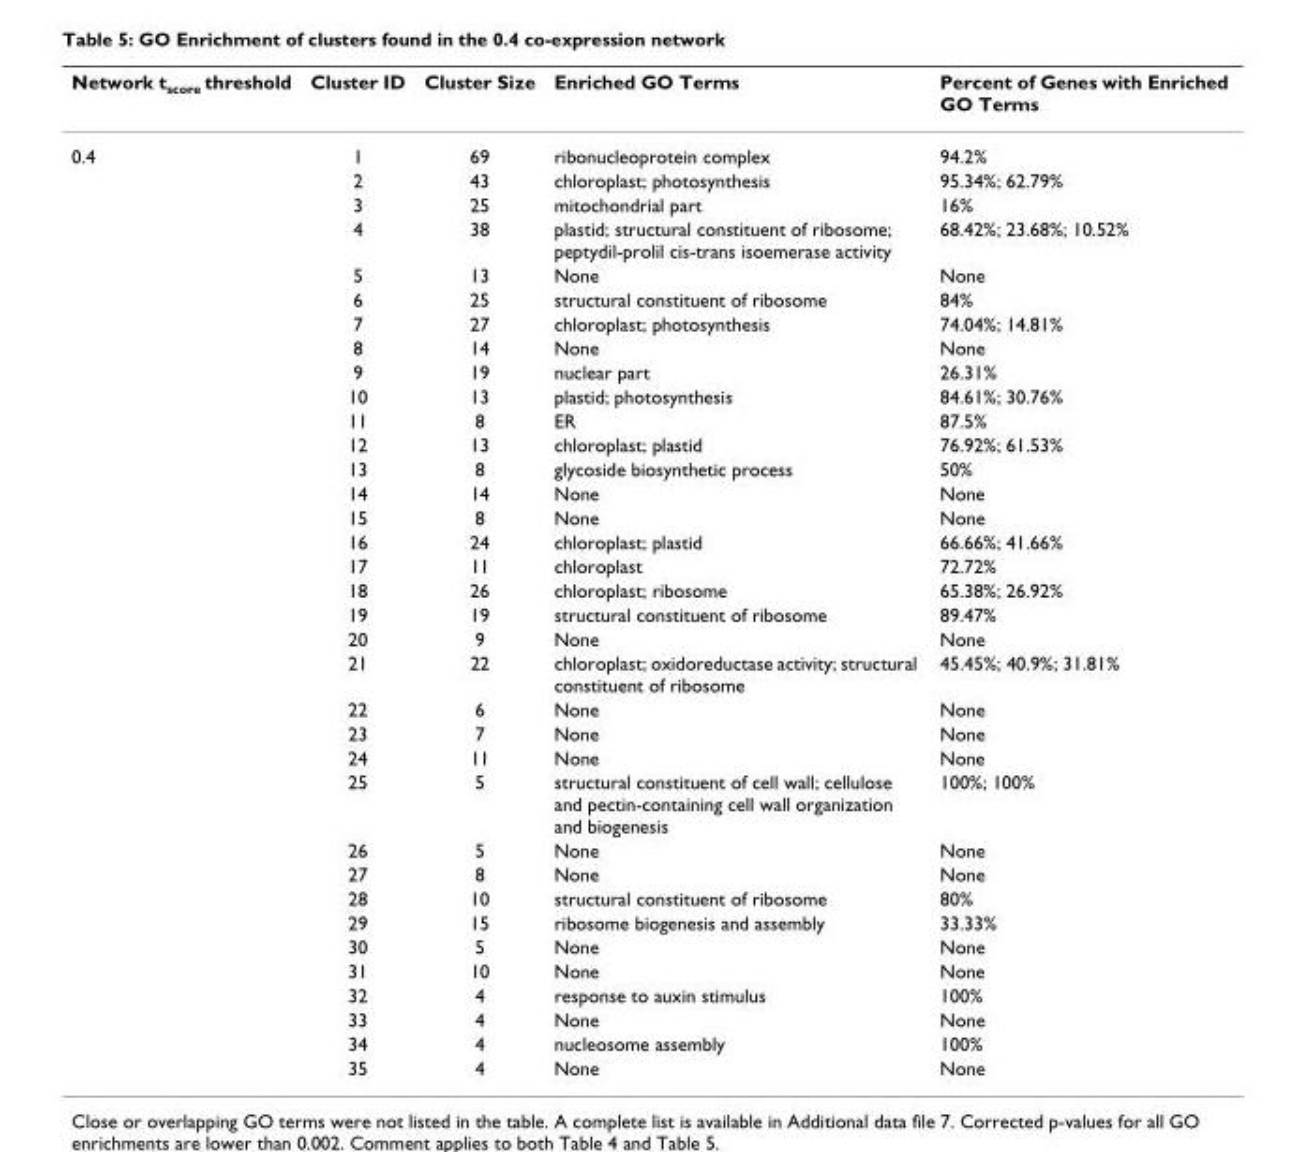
<table><thead><tr><td>Network t<sub>score</sub> threshold</td><td>Cluster ID</td><td>Cluster Size</td><td>Enriched GO Terms</td><td>Percent of Genes with Enriched GO Terms</td></tr></thead><tbody><tr><td rowspan="35">0.4</td><td>1</td><td>69</td><td>ribonucleoprotein complex</td><td>94.2%</td></tr><tr><td>2</td><td>43</td><td>chloroplast; photosynthesis</td><td>95.34%; 62.79%</td></tr><tr><td>3</td><td>25</td><td>mitochondrial part</td><td>16%</td></tr><tr><td>4</td><td>38</td><td>plastid; structural constituent of ribosome; peptydil-prolil cis-trans isoemerase activity</td><td>68.42%; 23.68%; 10.52%</td></tr><tr><td>5</td><td>13</td><td>None</td><td>None</td></tr><tr><td>6</td><td>25</td><td>structural constituent of ribosome</td><td>84%</td></tr><tr><td>7</td><td>27</td><td>chloroplast; photosynthesis</td><td>74.04%; 14.81%</td></tr><tr><td>8</td><td>14</td><td>None</td><td>None</td></tr><tr><td>9</td><td>19</td><td>nuclear part</td><td>26.31%</td></tr><tr><td>10</td><td>13</td><td>plastid; photosynthesis</td><td>84.61%; 30.76%</td></tr><tr><td>11</td><td>8</td><td>ER</td><td>87.5%</td></tr><tr><td>12</td><td>13</td><td>chloroplast; plastid</td><td>76.92%; 61.53%</td></tr><tr><td>13</td><td>8</td><td>glycoside biosynthetic process</td><td>50%</td></tr><tr><td>14</td><td>14</td><td>None</td><td>None</td></tr><tr><td>15</td><td>8</td><td>None</td><td>None</td></tr><tr><td>16</td><td>24</td><td>chloroplast; plastid</td><td>66.66%; 41.66%</td></tr><tr><td>17</td><td>11</td><td>chloroplast</td><td>72.72%</td></tr><tr><td>18</td><td>26</td><td>chloroplast; ribosome</td><td>65.38%; 26.92%</td></tr><tr><td>19</td><td>19</td><td>structural constituent of ribosome</td><td>89.47%</td></tr><tr><td>20</td><td>9</td><td>None</td><td>None</td></tr><tr><td>21</td><td>22</td><td>chloroplast; oxidoreductase activity; structural constituent of ribosome</td><td>45.45%; 40.9%; 31.81%</td></tr><tr><td>22</td><td>6</td><td>None</td><td>None</td></tr><tr><td>23</td><td>7</td><td>None</td><td>None</td></tr><tr><td>24</td><td>11</td><td>None</td><td>None</td></tr><tr><td>25</td><td>5</td><td>structural constituent of cell wall; cellulose and pectin-containing cell wall organization and biogenesis</td><td>100%; 100%</td></tr><tr><td>26</td><td>5</td><td>None</td><td>None</td></tr><tr><td>27</td><td>8</td><td>None</td><td>None</td></tr><tr><td>28</td><td>10</td><td>structural constituent of ribosome</td><td>80%</td></tr><tr><td>29</td><td>15</td><td>ribosome biogenesis and assembly</td><td>33.33%</td></tr><tr><td>30</td><td>5</td><td>None</td><td>None</td></tr><tr><td>31</td><td>10</td><td>None</td><td>None</td></tr><tr><td>32</td><td>4</td><td>response to auxin stimulus</td><td>100%</td></tr><tr><td>33</td><td>4</td><td>None</td><td>None</td></tr><tr><td>34</td><td>4</td><td>nucleosome assembly</td><td>100%</td></tr><tr><td>35</td><td>4</td><td>None</td><td>None</td></tr></tbody></table>